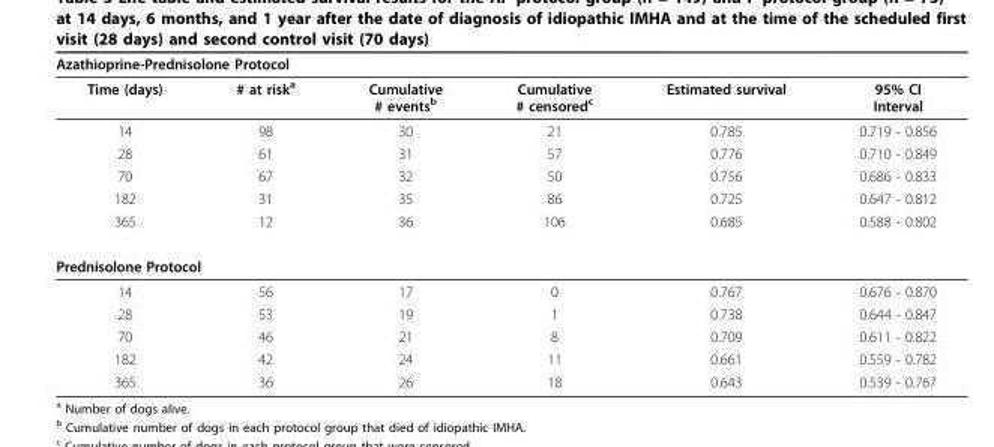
<table><thead><tr><td colspan="6">Azathioprine-Prednisolone Protocol</td></tr><tr><td>Time (days)</td><td># at risk<sup>a</sup></td><td>Cumulative # events<sup>b</sup></td><td>Cumulative # censored<sup>c</sup></td><td>Estimated survival</td><td>95% CI Interval</td></tr></thead><tbody><tr><td>14</td><td>98</td><td>30</td><td>21</td><td>0.785</td><td>0.719 - 0.856</td></tr><tr><td>28</td><td>61</td><td>31</td><td>57</td><td>0.776</td><td>0.710 - 0.849</td></tr><tr><td>70</td><td>67</td><td>32</td><td>50</td><td>0.756</td><td>0.686 - 0.833</td></tr><tr><td>182</td><td>31</td><td>35</td><td>86</td><td>0.725</td><td>0.647 - 0.812</td></tr><tr><td>365</td><td>12</td><td>36</td><td>106</td><td>0.685</td><td>0.588 - 0.802</td></tr><tr><td colspan="6">Prednisolone Protocol</td></tr><tr><td>14</td><td>56</td><td>17</td><td>0</td><td>0.767</td><td>0.676 - 0.870</td></tr><tr><td>28</td><td>53</td><td>19</td><td>1</td><td>0.738</td><td>0.644 - 0.847</td></tr><tr><td>70</td><td>46</td><td>21</td><td>8</td><td>0.709</td><td>0.611 - 0.822</td></tr><tr><td>182</td><td>42</td><td>24</td><td>11</td><td>0.661</td><td>0.559 - 0.782</td></tr><tr><td>365</td><td>36</td><td>26</td><td>18</td><td>0.643</td><td>0.539 - 0.767</td></tr></tbody></table>